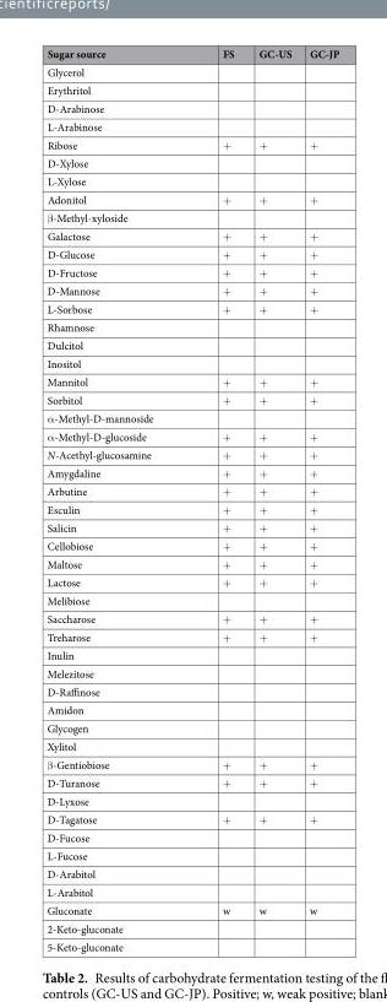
<table><thead><tr><td>Sugar source</td><td>FS</td><td>GC-US</td><td>GC-JP</td></tr></thead><tbody><tr><td colspan="4">Glycerol</td></tr><tr><td colspan="4">Erythritol</td></tr><tr><td colspan="4">D-Arabinose</td></tr><tr><td colspan="4">L-Arabinose</td></tr><tr><td>Ribose</td><td>+</td><td>+</td><td>+</td></tr><tr><td colspan="4">D-Xylose</td></tr><tr><td colspan="4">L-Xylose</td></tr><tr><td>Adonitol</td><td>+</td><td>+</td><td>+</td></tr><tr><td colspan="4">β-Methyl-xyloside</td></tr><tr><td>Galactose</td><td>+</td><td>+</td><td>+</td></tr><tr><td>D-Glucose</td><td>+</td><td>+</td><td>+</td></tr><tr><td>D-Fructose</td><td>+</td><td>+</td><td>+</td></tr><tr><td>D-Mannose</td><td>+</td><td>+</td><td>+</td></tr><tr><td>L-Sorbose</td><td>+</td><td>+</td><td>+</td></tr><tr><td colspan="4">Rhamnose</td></tr><tr><td colspan="4">Dulcitol</td></tr><tr><td colspan="4">Inositol</td></tr><tr><td>Mannitol</td><td>+</td><td>+</td><td>+</td></tr><tr><td>Sorbitol</td><td>+</td><td>+</td><td>+</td></tr><tr><td colspan="4">α-Methyl-D-mannoside</td></tr><tr><td>α-Methyl-D-glucoside</td><td>+</td><td>+</td><td>+</td></tr><tr><td>N-Acethyl-glucosamine</td><td>+</td><td>+</td><td>+</td></tr><tr><td>Amygdaline</td><td>+</td><td>+</td><td>+</td></tr><tr><td>Arbutine</td><td>+</td><td>+</td><td>+</td></tr><tr><td>Esculin</td><td>+</td><td>+</td><td>+</td></tr><tr><td>Salicin</td><td>+</td><td>+</td><td>+</td></tr><tr><td>Cellobiose</td><td>+</td><td>+</td><td>+</td></tr><tr><td>Maltose</td><td>+</td><td>+</td><td>+</td></tr><tr><td>Lactose</td><td>+</td><td>+</td><td>+</td></tr><tr><td colspan="4">Melibiose</td></tr><tr><td>Saccharose</td><td>+</td><td>+</td><td>+</td></tr><tr><td>Treharose</td><td>+</td><td>+</td><td>+</td></tr><tr><td colspan="4">Inulin</td></tr><tr><td colspan="4">Melezitose</td></tr><tr><td colspan="4">D-Raffinose</td></tr><tr><td colspan="4">Amidon</td></tr><tr><td colspan="4">Glycogen</td></tr><tr><td colspan="4">Xylitol</td></tr><tr><td>β-Gentiobiose</td><td>+</td><td>+</td><td>+</td></tr><tr><td>D-Turanose</td><td>+</td><td>+</td><td>+</td></tr><tr><td colspan="4">D-Lyxose</td></tr><tr><td>D-Tagatose</td><td>+</td><td>+</td><td>+</td></tr><tr><td colspan="4">D-Fucose</td></tr><tr><td colspan="4">L-Fucose</td></tr><tr><td colspan="4">D-Arabitol</td></tr><tr><td colspan="4">L-Arabitol</td></tr><tr><td>Gluconate</td><td>w</td><td>w</td><td>w</td></tr><tr><td colspan="4">2-Keto-gluconate</td></tr><tr><td>5-Keto-gluconate</td><td></td><td></td><td></td></tr></tbody></table>